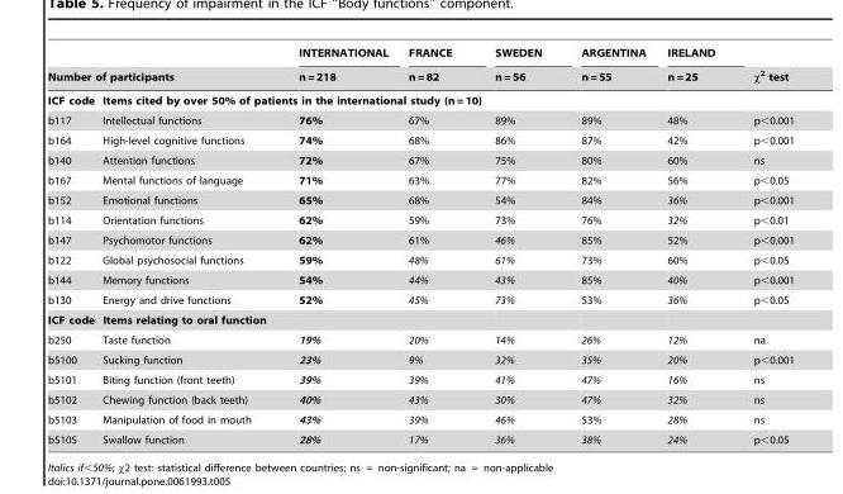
<table><thead><tr><td></td><td></td><td rowspan="2">INTERNATIONAL n = 218</td><td rowspan="2">FRANCE n = 82</td><td rowspan="2">SWEDEN n = 56</td><td rowspan="2">ARGENTINA n = 55</td><td rowspan="2">IRELAND n = 25</td><td rowspan="2">x2 test</td></tr><tr><td colspan="2">Number of participants</td></tr></thead><tbody><tr><td>ICF code</td><td colspan="7">Items cited by over 50% of patients in the international study (n = 10)</td></tr><tr><td>b117</td><td>Intellectual functions</td><td>76%</td><td>67%</td><td>89%</td><td>89%</td><td>48%</td><td>p&lt;0.001</td></tr><tr><td>b164</td><td>High-level cognitive functions</td><td>74%</td><td>68%</td><td>86%</td><td>87%</td><td>42%</td><td>p&lt;0.001</td></tr><tr><td>b140</td><td>Attention functions</td><td>72%</td><td>67%</td><td>75%</td><td>80%</td><td>60%</td><td>ns</td></tr><tr><td>b167</td><td>Mental functions of language</td><td>71%</td><td>63%</td><td>77%</td><td>82%</td><td>56%</td><td>p&lt;0.05</td></tr><tr><td>b152</td><td>Emotional functions</td><td>65%</td><td>68%</td><td>54%</td><td>84%</td><td>36%</td><td>p&lt;0.001</td></tr><tr><td>b114</td><td>Orientation functions</td><td>62%</td><td>59%</td><td>73%</td><td>76%</td><td>32%</td><td>p&lt;0.01</td></tr><tr><td>b147</td><td>Psychomotor functions</td><td>62%</td><td>61%</td><td>46%</td><td>85%</td><td>52%</td><td>p&lt;0.001</td></tr><tr><td>b122</td><td>Global psychosocial functions</td><td>59%</td><td>48%</td><td>61%</td><td>73%</td><td>60%</td><td>p&lt;0.05</td></tr><tr><td>b144</td><td>Memory functions</td><td>54%</td><td>44%</td><td>43%</td><td>85%</td><td>40%</td><td>p&lt;0.001</td></tr><tr><td>b130</td><td>Energy and drive functions</td><td>52%</td><td>45%</td><td>73%</td><td>53%</td><td>36%</td><td>p&lt;0.05</td></tr><tr><td>ICF code</td><td>Items relating to oral function</td><td></td><td></td><td></td><td></td><td></td><td></td></tr><tr><td>b250</td><td>Taste function</td><td>19%</td><td>20%</td><td>14%</td><td>26%</td><td>12%</td><td>na</td></tr><tr><td>b5100</td><td>Sucking function</td><td>23%</td><td>9%</td><td>32%</td><td>35%</td><td>20%</td><td>p&lt;0.001</td></tr><tr><td>b5101</td><td>Biting function (front teeth)</td><td>39%</td><td>39%</td><td>41%</td><td>47%</td><td>16%</td><td>ns</td></tr><tr><td>b5102</td><td>Chewing function (back teeth)</td><td>40%</td><td>43%</td><td>30%</td><td>47%</td><td>32%</td><td>ns</td></tr><tr><td>b5103</td><td>Manipulation of food in mouth</td><td>43%</td><td>39%</td><td>46%</td><td>53%</td><td>28%</td><td>ns</td></tr><tr><td>b5105</td><td>Swallow function</td><td>28%</td><td>17%</td><td>36%</td><td>38%</td><td>24%</td><td>p&lt;0.05</td></tr></tbody></table>